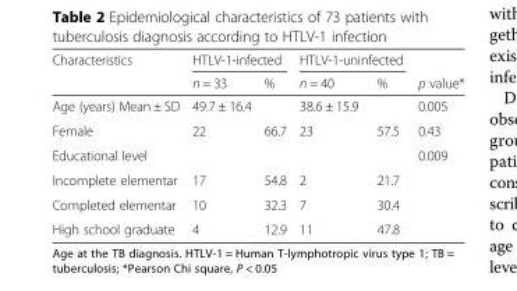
<table><thead><tr><td rowspan="2">Characteristics</td><td colspan="2">HTLV-1-infected</td><td colspan="2">HTLV-1-uninfected</td><td rowspan="2">p value*</td></tr><tr><td>n = 33</td><td>%</td><td>n = 40</td><td>%</td></tr></thead><tbody><tr><td>Age (years) Mean ± SD</td><td>49.7 ± 16.4</td><td></td><td>38.6 ± 15.9</td><td></td><td>0.005</td></tr><tr><td>Female</td><td>22</td><td>66.7</td><td>23</td><td>57.5</td><td>0.43</td></tr><tr><td>Educational level</td><td></td><td></td><td></td><td></td><td>0.009</td></tr><tr><td>Incomplete elementar</td><td>17</td><td>54.8</td><td>2</td><td>21.7</td><td></td></tr><tr><td>Completed elementar</td><td>10</td><td>32.3</td><td>7</td><td>30.4</td><td></td></tr><tr><td>High school graduate</td><td>4</td><td>12.9</td><td>11</td><td>47.8</td><td></td></tr></tbody></table>